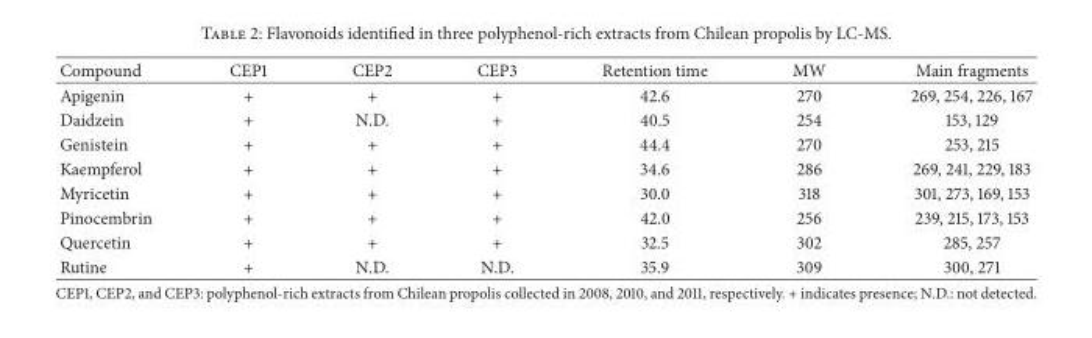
<table><thead><tr><td>Compound</td><td>CEP1</td><td>CEP2</td><td>CEP3</td><td>Retention time</td><td>MW</td><td>Main fragments</td></tr></thead><tbody><tr><td>Apigenin</td><td>+</td><td>+</td><td>+</td><td>42.6</td><td>270</td><td>269, 254, 226, 167</td></tr><tr><td>Daidzein</td><td>+</td><td>N.D.</td><td>+</td><td>40.5</td><td>254</td><td>153, 129</td></tr><tr><td>Genistein</td><td>+</td><td>+</td><td>+</td><td>44.4</td><td>270</td><td>253, 215</td></tr><tr><td>Kaempferol</td><td>+</td><td>+</td><td>+</td><td>34.6</td><td>286</td><td>269, 241, 229, 183</td></tr><tr><td>Myricetin</td><td>+</td><td>+</td><td>+</td><td>30.0</td><td>318</td><td>301, 273, 169, 153</td></tr><tr><td>Pinocembrin</td><td>+</td><td>+</td><td>+</td><td>42.0</td><td>256</td><td>239, 215, 173, 153</td></tr><tr><td>Quercetin</td><td>+</td><td>+</td><td>+</td><td>32.5</td><td>302</td><td>285, 257</td></tr><tr><td>Rutine</td><td>+</td><td>N.D.</td><td>N.D.</td><td>35.9</td><td>309</td><td>300, 271</td></tr></tbody></table>